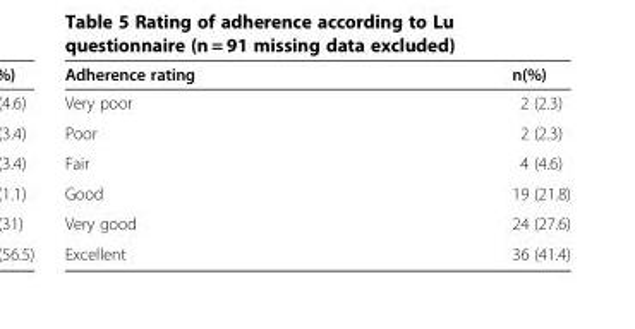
<table><thead><tr><td>Adherence rating</td><td>n(%)</td></tr></thead><tbody><tr><td>Very poor</td><td>2 (2.3)</td></tr><tr><td>Poor</td><td>2 (2.3)</td></tr><tr><td>Fair</td><td>4 (4.6)</td></tr><tr><td>Good</td><td>19 (21.8)</td></tr><tr><td>Very good</td><td>24 (27.6)</td></tr><tr><td>Excellent</td><td>36 (41.4)</td></tr></tbody></table>